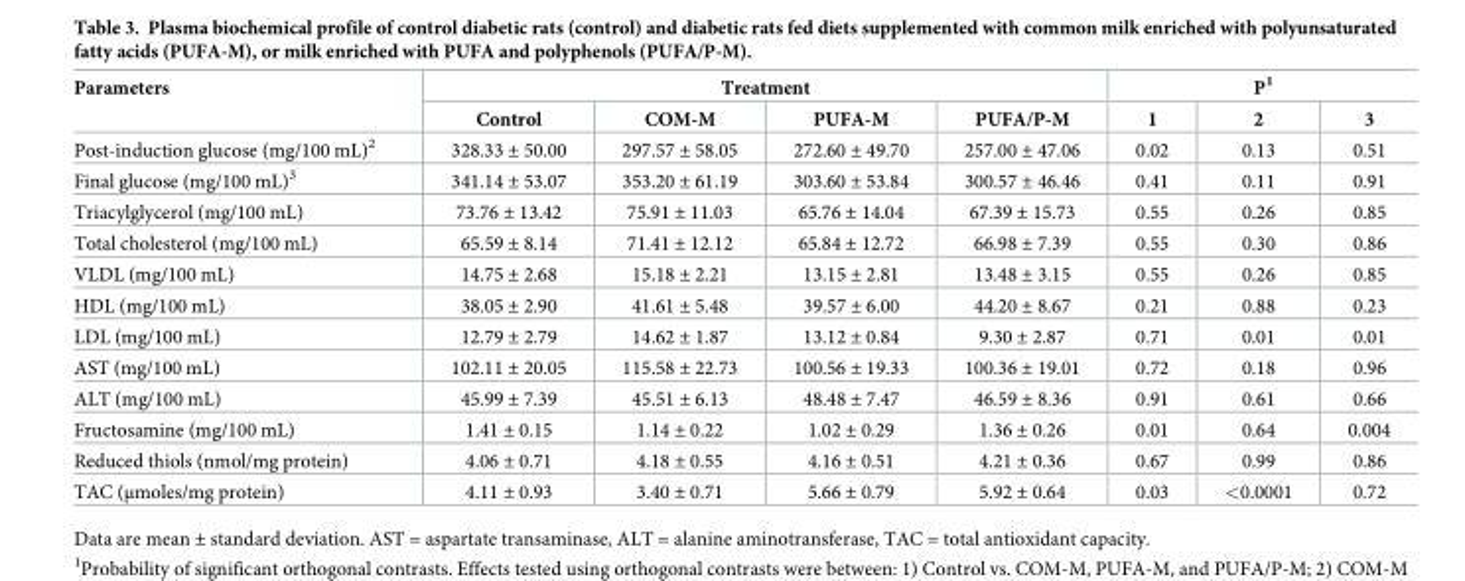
<table><thead><tr><td rowspan="2">Parameters</td><td colspan="4">Treatment</td><td colspan="3">P<sup>1</sup></td></tr><tr><td>Control</td><td>COM-M</td><td>PUFA-M</td><td>PUFA/P-M</td><td>1</td><td>2</td><td>3</td></tr></thead><tbody><tr><td>Post-induction glucose (mg/100 mL)<sup>2</sup></td><td>328.33 ± 50.00</td><td>297.57 ± 58.05</td><td>272.60 ± 49.70</td><td>257.00 ± 47.06</td><td>0.02</td><td>0.13</td><td>0.51</td></tr><tr><td>Final glucose (mg/100 mL)<sup>3</sup></td><td>341.14 ± 53.07</td><td>353.20 ± 61.19</td><td>303.60 ± 53.84</td><td>300.57 ± 46.46</td><td>0.41</td><td>0.11</td><td>0.91</td></tr><tr><td>Triacylglycerol (mg/100 mL)</td><td>73.76 ± 13.42</td><td>75.91 ± 11.03</td><td>65.76 ± 14.04</td><td>67.39 ± 15.73</td><td>0.55</td><td>0.26</td><td>0.85</td></tr><tr><td>Total cholesterol (mg/100 mL)</td><td>65.59 ± 8.14</td><td>71.41 ± 12.12</td><td>65.84 ± 12.72</td><td>66.98 ± 7.39</td><td>0.55</td><td>0.30</td><td>0.86</td></tr><tr><td>VLDL (mg/100 mL)</td><td>14.75 ± 2.68</td><td>15.18 ± 2.21</td><td>13.15 ± 2.81</td><td>13.48 ± 3.15</td><td>0.55</td><td>0.26</td><td>0.85</td></tr><tr><td>HDL (mg/100 mL)</td><td>38.05 ± 2.90</td><td>41.61 ± 5.48</td><td>39.57 ± 6.00</td><td>44.20 ± 8.67</td><td>0.21</td><td>0.88</td><td>0.23</td></tr><tr><td>LDL (mg/100 mL)</td><td>12.79 ± 2.79</td><td>14.62 ± 1.87</td><td>13.12 ± 0.84</td><td>9.30 ± 2.87</td><td>0.71</td><td>0.01</td><td>0.01</td></tr><tr><td>AST (mg/100 mL)</td><td>102.11 ± 20.05</td><td>115.58 ± 22.73</td><td>100.56 ± 19.33</td><td>100.36 ± 19.01</td><td>0.72</td><td>0.18</td><td>0.96</td></tr><tr><td>ALT (mg/100 mL)</td><td>45.99 ± 7.39</td><td>45.51 ± 6.13</td><td>48.48 ± 7.47</td><td>46.59 ± 8.36</td><td>0.91</td><td>0.61</td><td>0.66</td></tr><tr><td>Fructosamine (mg/100 mL)</td><td>1.41 ± 0.15</td><td>1.14 ± 0.22</td><td>1.02 ± 0.29</td><td>1.36 ± 0.26</td><td>0.01</td><td>0.64</td><td>0.004</td></tr><tr><td>Reduced thiols (nmol/mg protein)</td><td>4.06 ± 0.71</td><td>4.18 ± 0.55</td><td>4.16 ± 0.51</td><td>4.21 ± 0.36</td><td>0.67</td><td>0.99</td><td>0.86</td></tr><tr><td>TAC (μmoles/mg protein)</td><td>4.11 ± 0.93</td><td>3.40 ± 0.71</td><td>5.66 ± 0.79</td><td>5.92 ± 0.64</td><td>0.03</td><td>&lt;0.0001</td><td>0.72</td></tr></tbody></table>